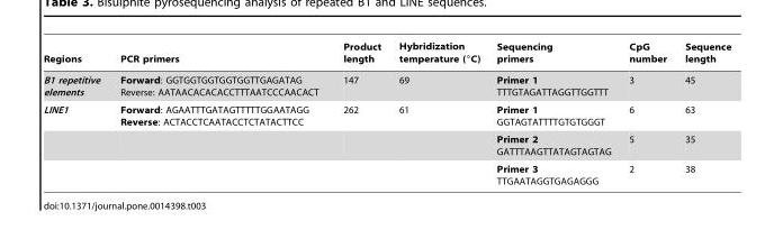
<table><thead><tr><td>Regions</td><td>PCR primers</td><td>Product length</td><td>Hybridization temperature (°C)</td><td>Sequencing primers</td><td>CpG number</td><td>Sequence length</td></tr></thead><tbody><tr><td>B1 repetitive elements</td><td>Forward: GGTGGTGGTGGTGGTTGAGATAG Reverse: AATAACACACACCTTTAATCCCAACACT</td><td>147</td><td>69</td><td>Primer 1 TTTGTAGATTAGGTTGGTTT</td><td>3</td><td>45</td></tr><tr><td rowspan="3">LINE1</td><td>Forward: AGAATTTGATAGTTTTTGGAATAGG Reverse: ACTACCTCAATACCTCTATACTTCC</td><td>262</td><td>61</td><td>Primer 1 GGTAGTATTTTGTGTGGGT</td><td>6</td><td>63</td></tr><tr><td></td><td></td><td></td><td>Primer 2 GATTTAAGTTATAGTAGTAG</td><td>5</td><td>35</td></tr><tr><td></td><td></td><td></td><td>Primer 3 TTGAATAGGTGAGAGGG</td><td>2</td><td>38</td></tr></tbody></table>